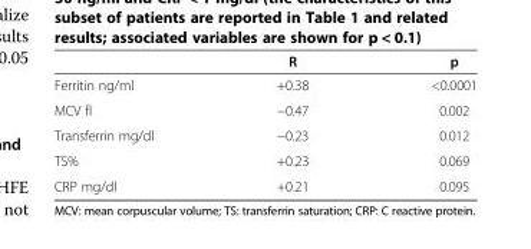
<table><thead><tr><td></td><td>R</td><td>p</td></tr></thead><tbody><tr><td>Ferritin ng/ml</td><td>+0.38</td><td>&lt;0.0001</td></tr><tr><td>MCV fl</td><td>−0.47</td><td>0.002</td></tr><tr><td>Transferrin mg/dl</td><td>−0.23</td><td>0.012</td></tr><tr><td>TS%</td><td>+0.23</td><td>0.069</td></tr><tr><td>CRP mg/dl</td><td>+0.21</td><td>0.095</td></tr></tbody></table>